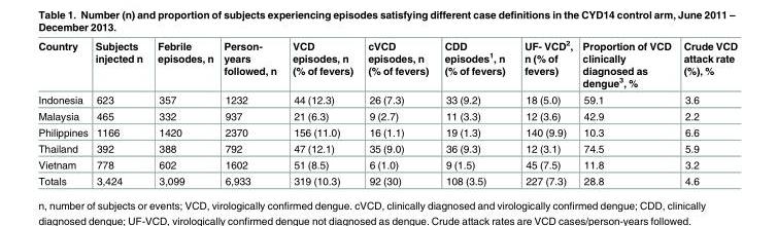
<table><thead><tr><td>Country</td><td>Subjects injected n</td><td>Febrile episodes, n</td><td>Person- years followed, n</td><td>VCD episodes, n (% of fevers)</td><td>cVCD episodes, n (% of fevers)</td><td>CDD episodes<sup>1</sup>, n (% of fevers)</td><td>UF- VCD<sup>2</sup>, n (% of fevers)</td><td>Proportion of VCD clinically diagnosed as dengue<sup>3</sup>, %</td><td>Crude VCD attack rate (%), %</td></tr></thead><tbody><tr><td>Indonesia</td><td>623</td><td>357</td><td>1232</td><td>44 (12.3)</td><td>26 (7.3)</td><td>33 (9.2)</td><td>18 (5.0)</td><td>59.1</td><td>3.6</td></tr><tr><td>Malaysia</td><td>465</td><td>332</td><td>937</td><td>21 (6.3)</td><td>9 (2.7)</td><td>11 (3.3)</td><td>12 (3.6)</td><td>42.9</td><td>2.2</td></tr><tr><td>Philippines</td><td>1166</td><td>1420</td><td>2370</td><td>156 (11.0)</td><td>16 (1.1)</td><td>19 (1.3)</td><td>140 (9.9)</td><td>10.3</td><td>6.6</td></tr><tr><td>Thailand</td><td>392</td><td>388</td><td>792</td><td>47 (12.1)</td><td>35 (9.0)</td><td>36 (9.3)</td><td>12 (3.1)</td><td>74.5</td><td>5.9</td></tr><tr><td>Vietnam</td><td>778</td><td>602</td><td>1602</td><td>51 (8.5)</td><td>6 (1.0)</td><td>9 (1.5)</td><td>45 (7.5)</td><td>11.8</td><td>3.2</td></tr><tr><td>Totals</td><td>3,424</td><td>3,099</td><td>6,933</td><td>319 (10.3)</td><td>92 (30)</td><td>108 (3.5)</td><td>227 (7.3)</td><td>28.8</td><td>4.6</td></tr></tbody></table>